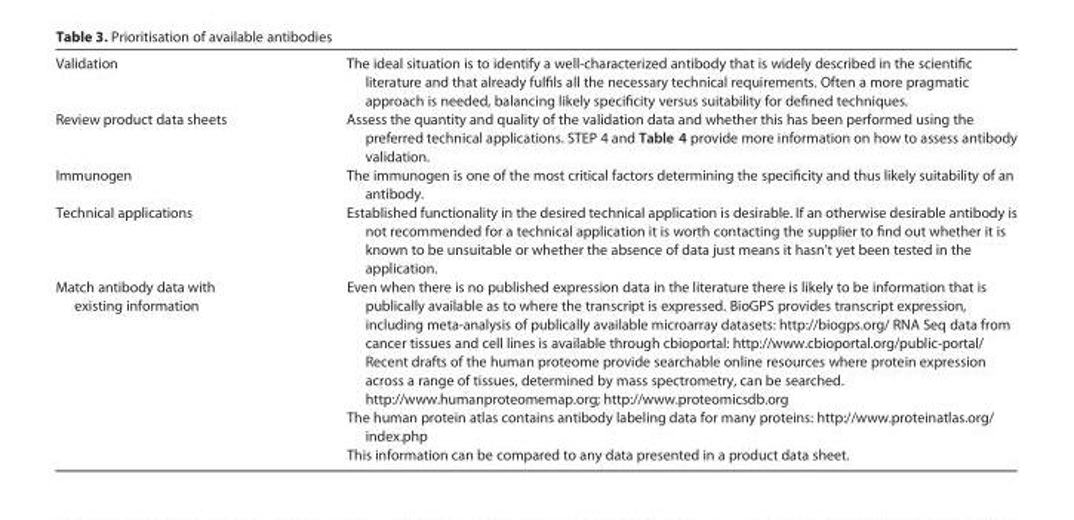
<table><tbody><tr><td>Validation</td><td>The ideal situation is to identify a well-characterized antibody that is widely described in the scientific literature and that already fulfils all the necessary technical requirements. Often a more pragmatic approach is needed, balancing likely specificity versus suitability for defined techniques.</td></tr><tr><td>Review product data sheets</td><td>Assess the quantity and quality of the validation data and whether this has been performed using the preferred technical applications. STEP 4 and Table 4 provide more information on how to assess antibody validation.</td></tr><tr><td>Immunogen</td><td>The immunogen is one of the most critical factors determining the specificity and thus likely suitability of an antibody.</td></tr><tr><td>Technical applications</td><td>Established functionality in the desired technical application is desirable. If an otherwise desirable antibody is not recommended for a technical application it is worth contacting the supplier to find out whether it is known to be unsuitable or whether the absence of data just means it hasn’t yet been tested in the application.</td></tr><tr><td>Match antibody data with existing information</td><td>Even when there is no published expression data in the literature there is likely to be information that is publically available as to where the transcript is expressed. BioGPS provides transcript expression, including meta-analysis of publically available microarray datasets: http://biogps.org/ RNA Seq data from cancer tissues and cell lines is available through cbioportal: http://www.cbioportal.org/public-portal/ Recent drafts of the human proteome provide searchable online resources where protein expression across a range of tissues, determined by mass spectrometry, can be searched. http://www.humanproteomemap.org; http://www.proteomicsdb.org The human protein atlas contains antibody labeling data for many proteins: http://www.proteinatlas.org/ index.php This information can be compared to any data presented in a product data sheet.</td></tr></tbody></table>